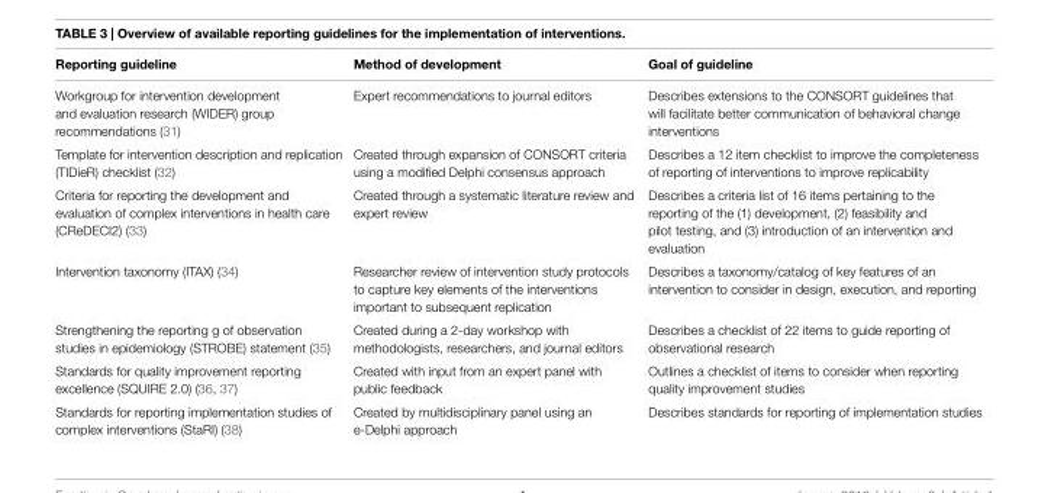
<table><thead><tr><td>Reporting guideline</td><td>Method of development</td><td>Goal of guideline</td></tr></thead><tbody><tr><td>Workgroup for intervention development and evaluation research (WIDER) group recommendations (31)</td><td>Expert recommendations to journal editors</td><td>Describes extensions to the CONSORT guidelines that will facilitate better communication of behavioral change interventions</td></tr><tr><td>Template for intervention description and replication (TIDieR) checklist (32)</td><td>Created through expansion of CONSORT criteria using a modified Delphi consensus approach</td><td>Describes a 12 item checklist to improve the completeness of reporting of interventions to improve replicability</td></tr><tr><td>Criteria for reporting the development and evaluation of complex interventions in health care (CReDECI2) (33)</td><td>Created through a systematic literature review and expert review</td><td>Describes a criteria list of 16 items pertaining to the reporting of the (1) development, (2) feasibility and pilot testing, and (3) introduction of an intervention and evaluation</td></tr><tr><td>Intervention taxonomy (ITAX) (34)</td><td>Researcher review of intervention study protocols to capture key elements of the interventions important to subsequent replication</td><td>Describes a taxonomy/catalog of key features of an intervention to consider in design, execution, and reporting</td></tr><tr><td>Strengthening the reporting g of observation studies in epidemiology (STROBE) statement (35)</td><td>Created during a 2-day workshop with methodologists, researchers, and journal editors</td><td>Describes a checklist of 22 items to guide reporting of observational research</td></tr><tr><td>Standards for quality improvement reporting excellence (SQUIRE 2.0) (36, 37)</td><td>Created with input from an expert panel with public feedback</td><td>Outlines a checklist of items to consider when reporting quality improvement studies</td></tr><tr><td>Standards for reporting implementation studies of complex interventions (StaRI) (38)</td><td>Created by multidisciplinary panel using an e-Delphi approach</td><td>Describes standards for reporting of implementation studies</td></tr></tbody></table>